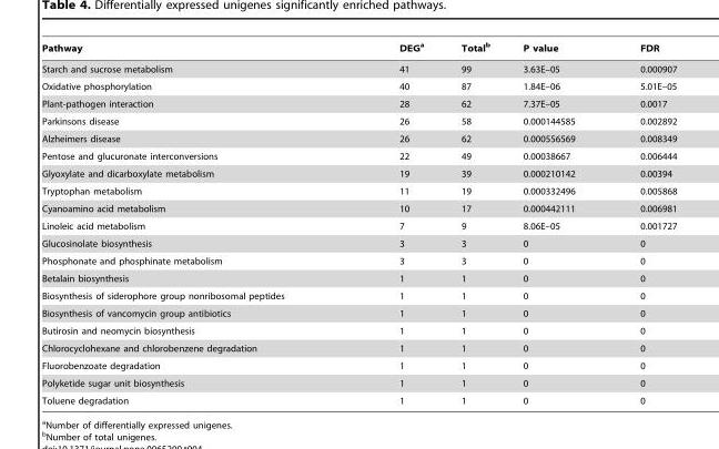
<table><thead><tr><td>Pathway</td><td>DEG<sup>a</sup></td><td>Total<sup>b</sup></td><td>P value</td><td>FDR</td></tr></thead><tbody><tr><td>Starch and sucrose metabolism</td><td>41</td><td>99</td><td>3.63E–05</td><td>0.000907</td></tr><tr><td>Oxidative phosphorylation</td><td>40</td><td>87</td><td>1.84E–06</td><td>5.01E–05</td></tr><tr><td>Plant-pathogen interaction</td><td>28</td><td>62</td><td>7.37E–05</td><td>0.0017</td></tr><tr><td>Parkinsons disease</td><td>26</td><td>58</td><td>0.000144585</td><td>0.002892</td></tr><tr><td>Alzheimers disease</td><td>26</td><td>62</td><td>0.000556569</td><td>0.008349</td></tr><tr><td>Pentose and glucuronate interconversions</td><td>22</td><td>49</td><td>0.00038667</td><td>0.006444</td></tr><tr><td>Glyoxylate and dicarboxylate metabolism</td><td>19</td><td>39</td><td>0.000210142</td><td>0.00394</td></tr><tr><td>Tryptophan metabolism</td><td>11</td><td>19</td><td>0.000332496</td><td>0.005868</td></tr><tr><td>Cyanoamino acid metabolism</td><td>10</td><td>17</td><td>0.000442111</td><td>0.006981</td></tr><tr><td>Linoleic acid metabolism</td><td>7</td><td>9</td><td>8.06E–05</td><td>0.001727</td></tr><tr><td>Glucosinolate biosynthesis</td><td>3</td><td>3</td><td>0</td><td>0</td></tr><tr><td>Phosphonate and phosphinate metabolism</td><td>3</td><td>3</td><td>0</td><td>0</td></tr><tr><td>Betalain biosynthesis</td><td>1</td><td>1</td><td>0</td><td>0</td></tr><tr><td>Biosynthesis of siderophore group nonribosomal peptides</td><td>1</td><td>1</td><td>0</td><td>0</td></tr><tr><td>Biosynthesis of vancomycin group antibiotics</td><td>1</td><td>1</td><td>0</td><td>0</td></tr><tr><td>Butirosin and neomycin biosynthesis</td><td>1</td><td>1</td><td>0</td><td>0</td></tr><tr><td>Chlorocyclohexane and chlorobenzene degradation</td><td>1</td><td>1</td><td>0</td><td>0</td></tr><tr><td>Fluorobenzoate degradation</td><td>1</td><td>1</td><td>0</td><td>0</td></tr><tr><td>Polyketide sugar unit biosynthesis</td><td>1</td><td>1</td><td>0</td><td>0</td></tr><tr><td>Toluene degradation</td><td>1</td><td>1</td><td>0</td><td>0</td></tr></tbody></table>